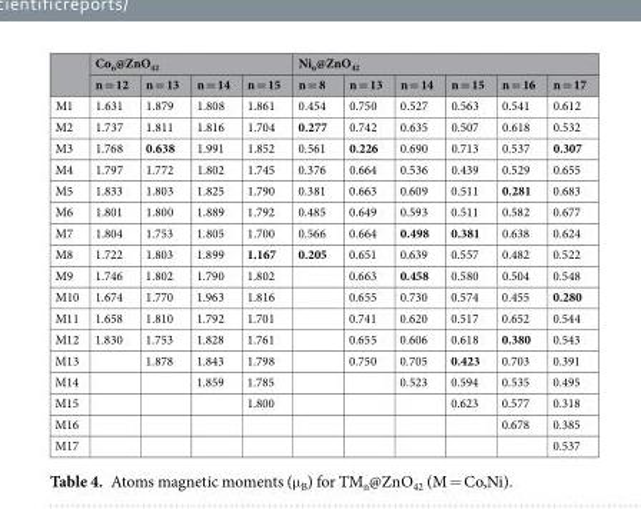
<table><thead><tr><td rowspan="2"></td><td colspan="4">Co<sub>n</sub>@ZnO<sub>42</sub></td><td colspan="6">Ni<sub>n</sub>@ZnO<sub>42</sub></td></tr><tr><td>n = 12</td><td>n = 13</td><td>n = 14</td><td>n = 15</td><td>n = 8</td><td>n = 13</td><td>n = 14</td><td>n = 15</td><td>n = 16</td><td>n = 17</td></tr></thead><tbody><tr><td>M1</td><td>1.631</td><td>1.879</td><td>1.808</td><td>1.861</td><td>0.454</td><td>0.750</td><td>0.527</td><td>0.563</td><td>0.541</td><td>0.612</td></tr><tr><td>M2</td><td>1.737</td><td>1.811</td><td>1.816</td><td>1.704</td><td>0.277</td><td>0.742</td><td>0.635</td><td>0.507</td><td>0.618</td><td>0.532</td></tr><tr><td>M3</td><td>1.768</td><td>0.638</td><td>1.991</td><td>1.852</td><td>0.561</td><td>0.226</td><td>0.690</td><td>0.713</td><td>0.537</td><td>0.307</td></tr><tr><td>M4</td><td>1.797</td><td>1.772</td><td>1.802</td><td>1.745</td><td>0.376</td><td>0.664</td><td>0.536</td><td>0.439</td><td>0.529</td><td>0.655</td></tr><tr><td>M5</td><td>1.833</td><td>1.803</td><td>1.825</td><td>1.790</td><td>0.381</td><td>0.663</td><td>0.609</td><td>0.511</td><td>0.281</td><td>0.683</td></tr><tr><td>M6</td><td>1.801</td><td>1.800</td><td>1.889</td><td>1.792</td><td>0.485</td><td>0.649</td><td>0.593</td><td>0.511</td><td>0.582</td><td>0.677</td></tr><tr><td>M7</td><td>1.804</td><td>1.753</td><td>1.805</td><td>1.700</td><td>0.566</td><td>0.664</td><td>0.498</td><td>0.381</td><td>0.638</td><td>0.624</td></tr><tr><td>M8</td><td>1.722</td><td>1.803</td><td>1.899</td><td>1.167</td><td>0.205</td><td>0.651</td><td>0.639</td><td>0.557</td><td>0.482</td><td>0.522</td></tr><tr><td>M9</td><td>1.746</td><td>1.802</td><td>1.790</td><td>1.802</td><td></td><td>0.663</td><td>0.458</td><td>0.580</td><td>0.504</td><td>0.548</td></tr><tr><td>M10</td><td>1.674</td><td>1.770</td><td>1.963</td><td>1.816</td><td></td><td>0.655</td><td>0.730</td><td>0.574</td><td>0.455</td><td>0.280</td></tr><tr><td>M11</td><td>1.658</td><td>1.810</td><td>1.792</td><td>1.701</td><td></td><td>0.741</td><td>0.620</td><td>0.517</td><td>0.652</td><td>0.544</td></tr><tr><td>M12</td><td>1.830</td><td>1.753</td><td>1.828</td><td>1.761</td><td></td><td>0.655</td><td>0.606</td><td>0.618</td><td>0.380</td><td>0.543</td></tr><tr><td>M13</td><td></td><td>1.878</td><td>1.843</td><td>1.798</td><td></td><td>0.750</td><td>0.705</td><td>0.423</td><td>0.703</td><td>0.391</td></tr><tr><td>M14</td><td></td><td></td><td>1.859</td><td>1.785</td><td></td><td></td><td>0.523</td><td>0.594</td><td>0.535</td><td>0.495</td></tr><tr><td>M15</td><td></td><td></td><td></td><td>1.800</td><td></td><td></td><td></td><td>0.623</td><td>0.577</td><td>0.318</td></tr><tr><td>M16</td><td></td><td></td><td></td><td></td><td></td><td></td><td></td><td></td><td>0.678</td><td>0.385</td></tr><tr><td>M17</td><td></td><td></td><td></td><td></td><td></td><td></td><td></td><td></td><td></td><td>0.537</td></tr></tbody></table>